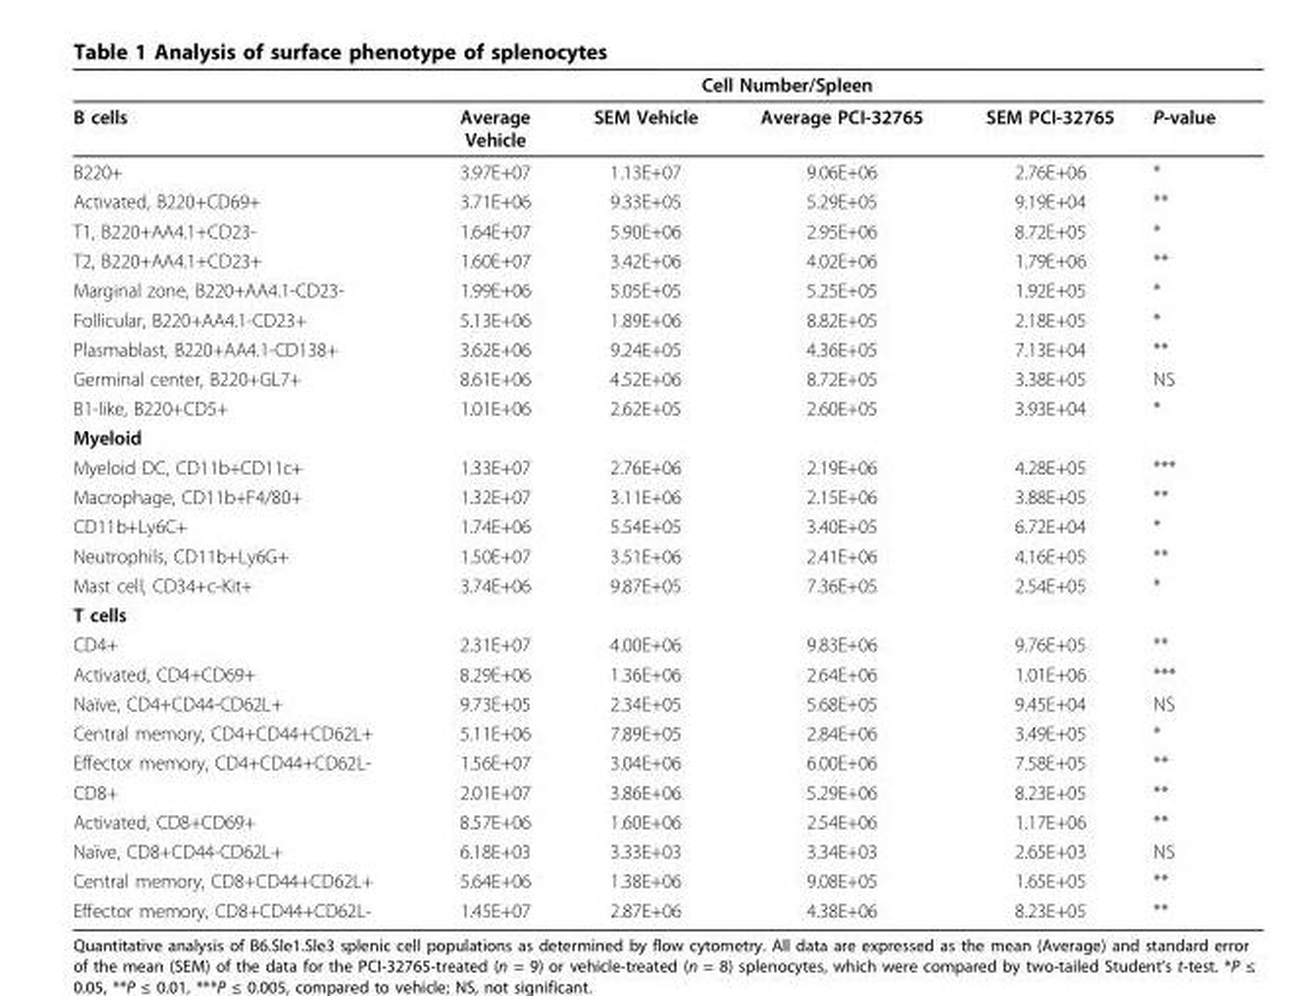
<table><thead><tr><td rowspan="2">B cells</td><td colspan="4">Cell Number/Spleen</td><td rowspan="2">P-value</td></tr><tr><td>Average Vehicle</td><td>SEM Vehicle</td><td>Average PCI-32765</td><td>SEM PCI-32765</td></tr></thead><tbody><tr><td>B220+</td><td>3.97E+07</td><td>1.13E+07</td><td>9.06E+06</td><td>2.76E+06</td><td>*</td></tr><tr><td>Activated, B220+CD69+</td><td>3.71E+06</td><td>9.33E+05</td><td>5.29E+05</td><td>9.19E+04</td><td>**</td></tr><tr><td>T1, B220+AA4.1+CD23-</td><td>1.64E+07</td><td>5.90E+06</td><td>2.95E+06</td><td>8.72E+05</td><td>*</td></tr><tr><td>T2, B220+AA4.1+CD23+</td><td>1.60E+07</td><td>3.42E+06</td><td>4.02E+06</td><td>1.79E+06</td><td>**</td></tr><tr><td>Marginal zone, B220+AA4.1-CD23-</td><td>1.99E+06</td><td>5.05E+05</td><td>5.25E+05</td><td>1.92E+05</td><td>*</td></tr><tr><td>Follicular, B220+AA4.1-CD23+</td><td>5.13E+06</td><td>1.89E+06</td><td>8.82E+05</td><td>2.18E+05</td><td>*</td></tr><tr><td>Plasmablast, B220+AA4.1-CD138+</td><td>3.62E+06</td><td>9.24E+05</td><td>4.36E+05</td><td>7.13E+04</td><td>**</td></tr><tr><td>Germinal center, B220+GL7+</td><td>8.61E+06</td><td>4.52E+06</td><td>8.72E+05</td><td>3.38E+05</td><td>NS</td></tr><tr><td>B1-like, B220+CD5+</td><td>1.01E+06</td><td>2.62E+05</td><td>2.60E+05</td><td>3.93E+04</td><td>*</td></tr><tr><td colspan="6">Myeloid</td></tr><tr><td>Myeloid DC, CD11b+CD11c+</td><td>1.33E+07</td><td>2.76E+06</td><td>2.19E+06</td><td>4.28E+05</td><td>***</td></tr><tr><td>Macrophage, CD11b+F4/80+</td><td>1.32E+07</td><td>3.11E+06</td><td>2.15E+06</td><td>3.88E+05</td><td>**</td></tr><tr><td>CD11b+Ly6C+</td><td>1.74E+06</td><td>5.54E+05</td><td>3.40E+05</td><td>6.72E+04</td><td>*</td></tr><tr><td>Neutrophils, CD11b+Ly6G+</td><td>1.50E+07</td><td>3.51E+06</td><td>2.41E+06</td><td>4.16E+05</td><td>**</td></tr><tr><td>Mast cell, CD34+c-Kit+</td><td>3.74E+06</td><td>9.87E+05</td><td>7.36E+05</td><td>2.54E+05</td><td>*</td></tr><tr><td colspan="6">T cells</td></tr><tr><td>CD4+</td><td>2.31E+07</td><td>4.00E+06</td><td>9.83E+06</td><td>9.76E+05</td><td>**</td></tr><tr><td>Activated, CD4+CD69+</td><td>8.29E+06</td><td>1.36E+06</td><td>2.64E+06</td><td>1.01E+06</td><td>***</td></tr><tr><td>Naïve, CD4+CD44-CD62L+</td><td>9.73E+05</td><td>2.34E+05</td><td>5.68E+05</td><td>9.45E+04</td><td>NS</td></tr><tr><td>Central memory, CD4+CD44+CD62L+</td><td>5.11E+06</td><td>7.89E+05</td><td>2.84E+06</td><td>3.49E+05</td><td>*</td></tr><tr><td>Effector memory, CD4+CD44+CD62L-</td><td>1.56E+07</td><td>3.04E+06</td><td>6.00E+06</td><td>7.58E+05</td><td>**</td></tr><tr><td>CD8+</td><td>2.01E+07</td><td>3.86E+06</td><td>5.29E+06</td><td>8.23E+05</td><td>**</td></tr><tr><td>Activated, CD8+CD69+</td><td>8.57E+06</td><td>1.60E+06</td><td>2.54E+06</td><td>1.17E+06</td><td>**</td></tr><tr><td>Naïve, CD8+CD44-CD62L+</td><td>6.18E+03</td><td>3.33E+03</td><td>3.34E+03</td><td>2.65E+03</td><td>NS</td></tr><tr><td>Central memory, CD8+CD44+CD62L+</td><td>5.64E+06</td><td>1.38E+06</td><td>9.08E+05</td><td>1.65E+05</td><td>**</td></tr><tr><td>Effector memory, CD8+CD44+CD62L-</td><td>1.45E+07</td><td>2.87E+06</td><td>4.38E+06</td><td>8.23E+05</td><td>**</td></tr></tbody></table>